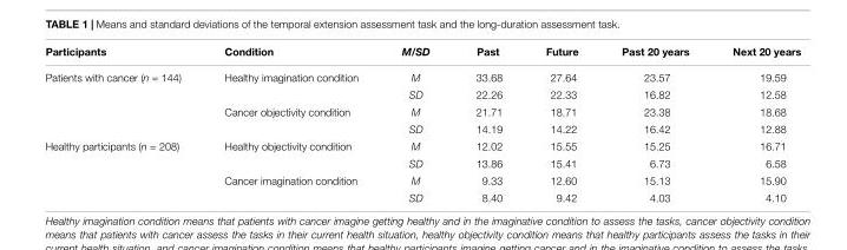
<table><thead><tr><td>Participants</td><td>Condition</td><td>M/SD</td><td>Past</td><td>Future</td><td>Past 20 years</td><td>Next 20 years</td></tr></thead><tbody><tr><td rowspan="4">Patients with cancer (n = 144)</td><td>Healthy imagination condition</td><td>M</td><td>33.68</td><td>27.64</td><td>23.57</td><td>19.59</td></tr><tr><td></td><td>SD</td><td>22.26</td><td>22.33</td><td>16.82</td><td>12.58</td></tr><tr><td>Cancer objectivity condition</td><td>M</td><td>21.71</td><td>18.71</td><td>23.38</td><td>18.68</td></tr><tr><td></td><td>SD</td><td>14.19</td><td>14.22</td><td>16.42</td><td>12.88</td></tr><tr><td rowspan="4">Healthy participants (n = 208)</td><td>Healthy objectivity condition</td><td>M</td><td>12.02</td><td>15.55</td><td>15.25</td><td>16.71</td></tr><tr><td></td><td>SD</td><td>13.86</td><td>15.41</td><td>6.73</td><td>6.58</td></tr><tr><td>Cancer imagination condition</td><td>M</td><td>9.33</td><td>12.60</td><td>15.13</td><td>15.90</td></tr><tr><td></td><td>SD</td><td>8.40</td><td>9.42</td><td>4.03</td><td>4.10</td></tr></tbody></table>